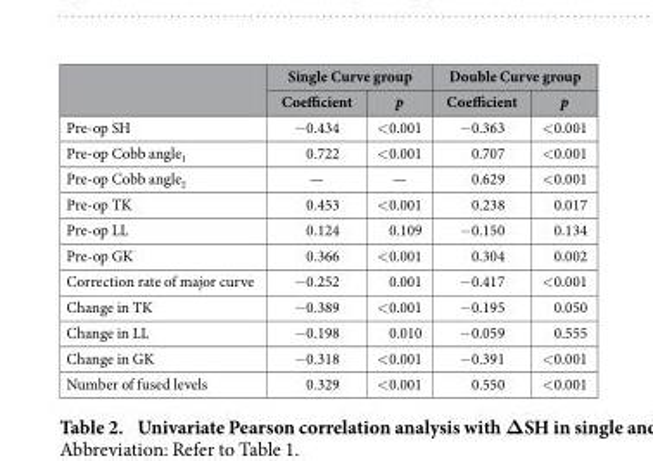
<table><thead><tr><td rowspan="2"></td><td colspan="2">Single Curve group</td><td colspan="2">Double Curve group</td></tr><tr><td>Coefficient</td><td>p</td><td>Coefficient</td><td>p</td></tr></thead><tbody><tr><td>Pre-op SH</td><td>− 0.434</td><td>&lt; 0.001</td><td>− 0.363</td><td>&lt; 0.001</td></tr><tr><td>Pre-op Cobb angle<sub>1</sub></td><td>0.722</td><td>&lt; 0.001</td><td>0.707</td><td>&lt; 0.001</td></tr><tr><td>Pre-op Cobb angle<sub>2</sub></td><td>—</td><td>—</td><td>0.629</td><td>&lt; 0.001</td></tr><tr><td>Pre-op TK</td><td>0.453</td><td>&lt; 0.001</td><td>0.238</td><td>0.017</td></tr><tr><td>Pre-op LL</td><td>0.124</td><td>0.109</td><td>− 0.150</td><td>0.134</td></tr><tr><td>Pre-op GK</td><td>0.366</td><td>&lt; 0.001</td><td>0.304</td><td>0.002</td></tr><tr><td>Correction rate of major curve</td><td>− 0.252</td><td>0.001</td><td>− 0.417</td><td>&lt; 0.001</td></tr><tr><td>Change in TK</td><td>− 0.389</td><td>&lt; 0.001</td><td>− 0.195</td><td>0.050</td></tr><tr><td>Change in LL</td><td>− 0.198</td><td>0.010</td><td>− 0.059</td><td>0.555</td></tr><tr><td>Change in GK</td><td>− 0.318</td><td>&lt; 0.001</td><td>− 0.391</td><td>&lt; 0.001</td></tr><tr><td>Number of fused levels</td><td>0.329</td><td>&lt; 0.001</td><td>0.550</td><td>&lt; 0.001</td></tr></tbody></table>